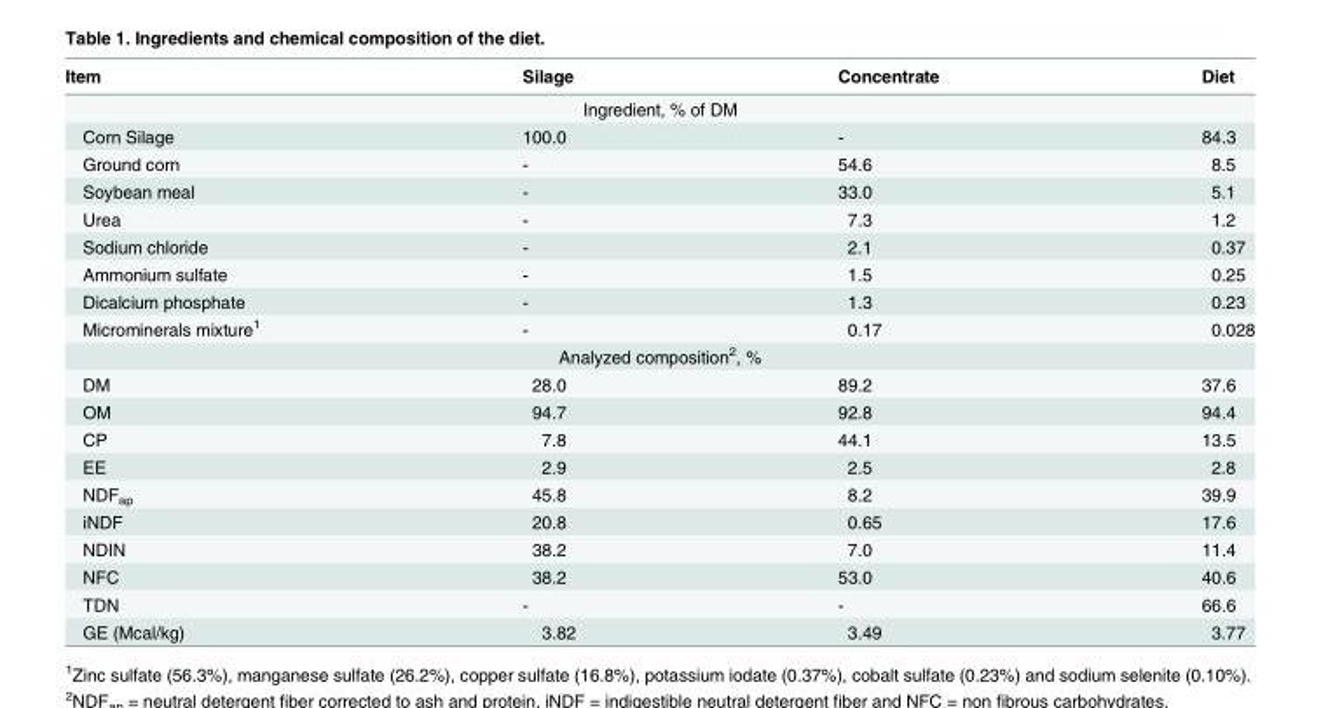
<table><thead><tr><td>Item</td><td>Silage</td><td>Concentrate</td><td>Diet</td></tr></thead><tbody><tr><td colspan="4">Ingredient, % of DM</td></tr><tr><td>Corn Silage</td><td>100.0</td><td>-</td><td>84.3</td></tr><tr><td>Ground corn</td><td>-</td><td>54.6</td><td>8.5</td></tr><tr><td>Soybean meal</td><td>-</td><td>33.0</td><td>5.1</td></tr><tr><td>Urea</td><td>-</td><td>7.3</td><td>1.2</td></tr><tr><td>Sodium chloride</td><td>-</td><td>2.1</td><td>0.37</td></tr><tr><td>Ammonium sulfate</td><td>-</td><td>1.5</td><td>0.25</td></tr><tr><td>Dicalcium phosphate</td><td>-</td><td>1.3</td><td>0.23</td></tr><tr><td>Microminerals mixture<sup>1</sup></td><td>-</td><td>0.17</td><td>0.028</td></tr><tr><td colspan="4">Analyzed composition<sup>2</sup>, %</td></tr><tr><td>DM</td><td>28.0</td><td>89.2</td><td>37.6</td></tr><tr><td>OM</td><td>94.7</td><td>92.8</td><td>94.4</td></tr><tr><td>CP</td><td>7.8</td><td>44.1</td><td>13.5</td></tr><tr><td>EE</td><td>2.9</td><td>2.5</td><td>2.8</td></tr><tr><td>NDF<sub>ap</sub></td><td>45.8</td><td>8.2</td><td>39.9</td></tr><tr><td>iNDF</td><td>20.8</td><td>0.65</td><td>17.6</td></tr><tr><td>NDIN</td><td>38.2</td><td>7.0</td><td>11.4</td></tr><tr><td>NFC</td><td>38.2</td><td>53.0</td><td>40.6</td></tr><tr><td>TDN</td><td>-</td><td>-</td><td>66.6</td></tr><tr><td>GE (Mcal/kg)</td><td>3.82</td><td>3.49</td><td>3.77</td></tr></tbody></table>